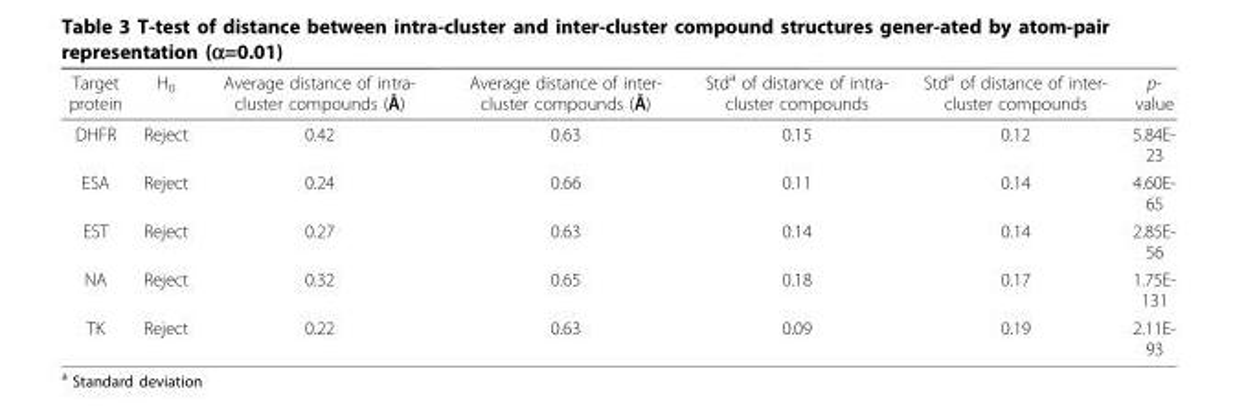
<table><thead><tr><td>Target protein</td><td>H<sub>0</sub></td><td>Average distance of intra- cluster compounds (Å)</td><td>Average distance of inter- cluster compounds (Å)</td><td>Std<sup>a</sup> of distance of intra- cluster compounds</td><td>Std<sup>a</sup> of distance of inter- cluster compounds</td><td>p- value</td></tr></thead><tbody><tr><td>DHFR</td><td>Reject</td><td>0.42</td><td>0.63</td><td>0.15</td><td>0.12</td><td>5.84E- 23</td></tr><tr><td>ESA</td><td>Reject</td><td>0.24</td><td>0.66</td><td>0.11</td><td>0.14</td><td>4.60E- 65</td></tr><tr><td>EST</td><td>Reject</td><td>0.27</td><td>0.63</td><td>0.14</td><td>0.14</td><td>2.85E- 56</td></tr><tr><td>NA</td><td>Reject</td><td>0.32</td><td>0.65</td><td>0.18</td><td>0.17</td><td>1.75E- 131</td></tr><tr><td>TK</td><td>Reject</td><td>0.22</td><td>0.63</td><td>0.09</td><td>0.19</td><td>2.11E-</td></tr></tbody></table>